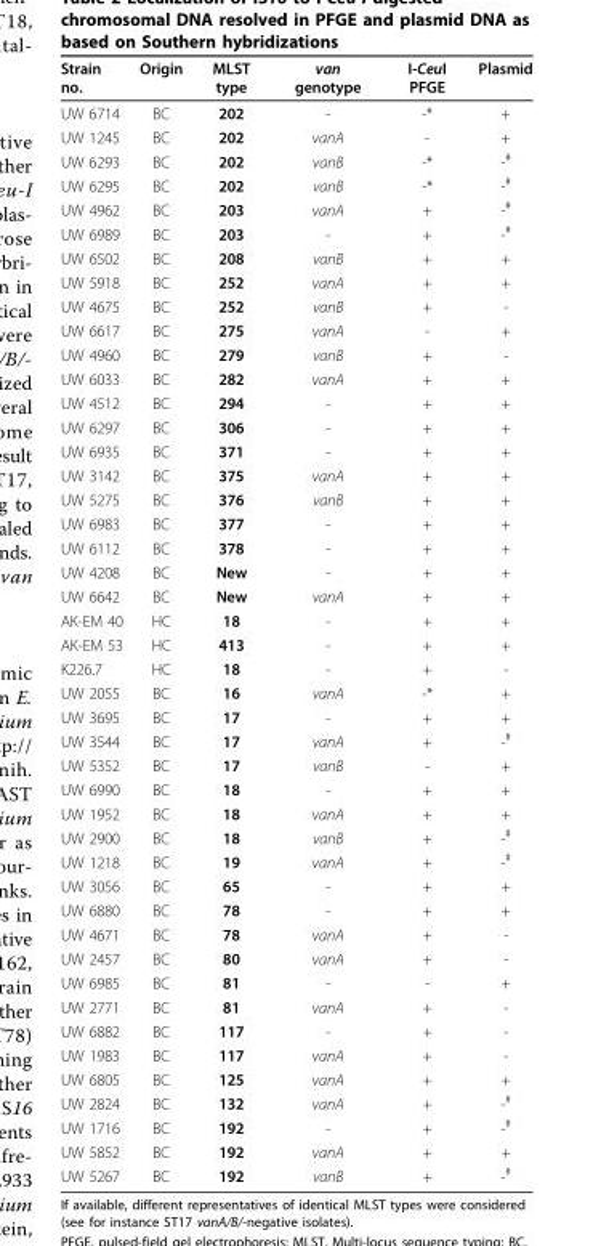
<table><thead><tr><td>Strain no.</td><td>Origin</td><td>MLST type</td><td>van genotype</td><td>I-CeuI PFGE</td><td>Plasmid</td></tr></thead><tbody><tr><td>UW 6714</td><td>BC</td><td>202</td><td>-</td><td>-*</td><td>+</td></tr><tr><td>UW 1245</td><td>BC</td><td>202</td><td>vanA</td><td>-</td><td>+</td></tr><tr><td>UW 6293</td><td>BC</td><td>202</td><td>vanB</td><td>-*</td><td>-<sup>#</sup></td></tr><tr><td>UW 6295</td><td>BC</td><td>202</td><td>vanB</td><td>-*</td><td>-<sup>#</sup></td></tr><tr><td>UW 4962</td><td>BC</td><td>203</td><td>vanA</td><td>+</td><td>-<sup>#</sup></td></tr><tr><td>UW 6989</td><td>BC</td><td>203</td><td>-</td><td>+</td><td>-<sup>#</sup></td></tr><tr><td>UW 6502</td><td>BC</td><td>208</td><td>vanB</td><td>+</td><td>+</td></tr><tr><td>UW 5918</td><td>BC</td><td>252</td><td>vanA</td><td>+</td><td>+</td></tr><tr><td>UW 4675</td><td>BC</td><td>252</td><td>vanB</td><td>+</td><td>-</td></tr><tr><td>UW 6617</td><td>BC</td><td>275</td><td>vanA</td><td>-</td><td>+</td></tr><tr><td>UW 4960</td><td>BC</td><td>279</td><td>vanB</td><td>+</td><td>-</td></tr><tr><td>UW 6033</td><td>BC</td><td>282</td><td>vanA</td><td>+</td><td>+</td></tr><tr><td>UW 4512</td><td>BC</td><td>294</td><td>-</td><td>+</td><td>+</td></tr><tr><td>UW 6297</td><td>BC</td><td>306</td><td>-</td><td>+</td><td>+</td></tr><tr><td>UW 6935</td><td>BC</td><td>371</td><td>-</td><td>+</td><td>+</td></tr><tr><td>UW 3142</td><td>BC</td><td>375</td><td>vanA</td><td>+</td><td>+</td></tr><tr><td>UW 5275</td><td>BC</td><td>376</td><td>vanB</td><td>+</td><td>+</td></tr><tr><td>UW 6983</td><td>BC</td><td>377</td><td>-</td><td>+</td><td>+</td></tr><tr><td>UW 6112</td><td>BC</td><td>378</td><td>-</td><td>+</td><td>+</td></tr><tr><td>UW 4208</td><td>BC</td><td>New</td><td>-</td><td>+</td><td>+</td></tr><tr><td>UW 6642</td><td>BC</td><td>New</td><td>vanA</td><td>+</td><td>+</td></tr><tr><td>AK-EM 40</td><td>HC</td><td>18</td><td>-</td><td>+</td><td>+</td></tr><tr><td>AK-EM 53</td><td>HC</td><td>413</td><td>-</td><td>+</td><td>+</td></tr><tr><td>K226.7</td><td>HC</td><td>18</td><td>-</td><td>+</td><td>-</td></tr><tr><td>UW 2055</td><td>BC</td><td>16</td><td>vanA</td><td>-*</td><td>+</td></tr><tr><td>UW 3695</td><td>BC</td><td>17</td><td>-</td><td>+</td><td>+</td></tr><tr><td>UW 3544</td><td>BC</td><td>17</td><td>vanA</td><td>+</td><td>-<sup>#</sup></td></tr><tr><td>UW 5352</td><td>BC</td><td>17</td><td>vanB</td><td>-</td><td>+</td></tr><tr><td>UW 6990</td><td>BC</td><td>18</td><td>-</td><td>+</td><td>+</td></tr><tr><td>UW 1952</td><td>BC</td><td>18</td><td>vanA</td><td>+</td><td>+</td></tr><tr><td>UW 2900</td><td>BC</td><td>18</td><td>vanB</td><td>+</td><td>-<sup>#</sup></td></tr><tr><td>UW 1218</td><td>BC</td><td>19</td><td>vanA</td><td>+</td><td>-<sup>#</sup></td></tr><tr><td>UW 3056</td><td>BC</td><td>65</td><td>-</td><td>+</td><td>+</td></tr><tr><td>UW 6880</td><td>BC</td><td>78</td><td>-</td><td>+</td><td>+</td></tr><tr><td>UW 4671</td><td>BC</td><td>78</td><td>vanA</td><td>+</td><td>-</td></tr><tr><td>UW 2457</td><td>BC</td><td>80</td><td>vanA</td><td>+</td><td>-</td></tr><tr><td>UW 6985</td><td>BC</td><td>81</td><td>-</td><td>-</td><td>+</td></tr><tr><td>UW 2771</td><td>BC</td><td>81</td><td>vanA</td><td>+</td><td>-</td></tr><tr><td>UW 6882</td><td>BC</td><td>117</td><td>-</td><td>+</td><td>-</td></tr><tr><td>UW 1983</td><td>BC</td><td>117</td><td>vanA</td><td>+</td><td>-</td></tr><tr><td>UW 6805</td><td>BC</td><td>125</td><td>vanA</td><td>+</td><td>+</td></tr><tr><td>UW 2824</td><td>BC</td><td>132</td><td>vanA</td><td>+</td><td>-<sup>#</sup></td></tr><tr><td>UW 1716</td><td>BC</td><td>192</td><td>-</td><td>+</td><td>-<sup>#</sup></td></tr><tr><td>UW 5852</td><td>BC</td><td>192</td><td>vanA</td><td>+</td><td>+</td></tr><tr><td>UW 5267</td><td>BC</td><td>192</td><td>vanB</td><td>+</td><td>-<sup>#</sup></td></tr></tbody></table>